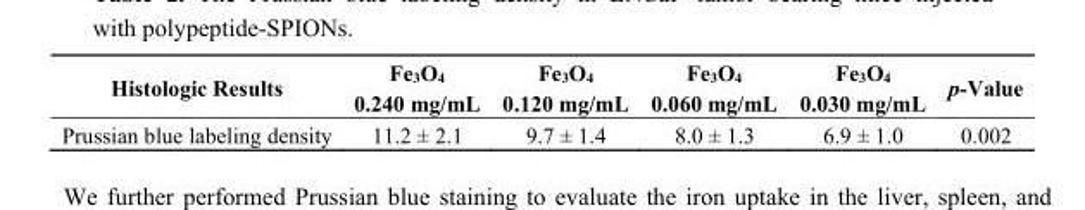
<table><thead><tr><td>Histologic Results</td><td>Fe<sub>3</sub>O<sub>4</sub> 0.240 mg/mL</td><td>Fe<sub>3</sub>O<sub>4</sub> 0.120 mg/mL</td><td>Fe<sub>3</sub>O<sub>4</sub> 0.060 mg/mL</td><td>Fe<sub>3</sub>O<sub>4</sub> 0.030 mg/mL</td><td>p-Value</td></tr></thead><tbody><tr><td>Prussian blue labeling density</td><td>11.2 ± 2.1</td><td>9.7 ± 1.4</td><td>8.0 ± 1.3</td><td>6.9 ± 1.0</td><td>0.002</td></tr></tbody></table>